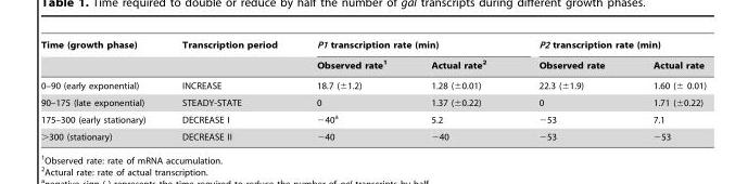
<table><thead><tr><td rowspan="2">Time (growth phase)</td><td rowspan="2">Transcription period</td><td colspan="2">P1 transcription rate (min)</td><td colspan="2">P2 transcription rate (min)</td></tr><tr><td>Observed rate<sup>1</sup></td><td>Actual rate<sup>2</sup></td><td>Observed rate</td><td>Actual rate</td></tr></thead><tbody><tr><td>0–90 (early exponential)</td><td>INCREASE</td><td>18.7 (±1.2)</td><td>1.28 (±0.01)</td><td>22.3 (±1.9)</td><td>1.60 (± 0.01)</td></tr><tr><td>90–175 (late exponential)</td><td>STEADY-STATE</td><td>0</td><td>1.37 (±0.22)</td><td>0</td><td>1.71 (±0.22)</td></tr><tr><td>175–300 (early stationary)</td><td>DECREASE I</td><td>−40<sup>a</sup></td><td>5.2</td><td>−53</td><td>7.1</td></tr><tr><td>&gt;300 (stationary)</td><td>DECREASE II</td><td>−40</td><td>−40</td><td>−53</td><td>−53</td></tr></tbody></table>